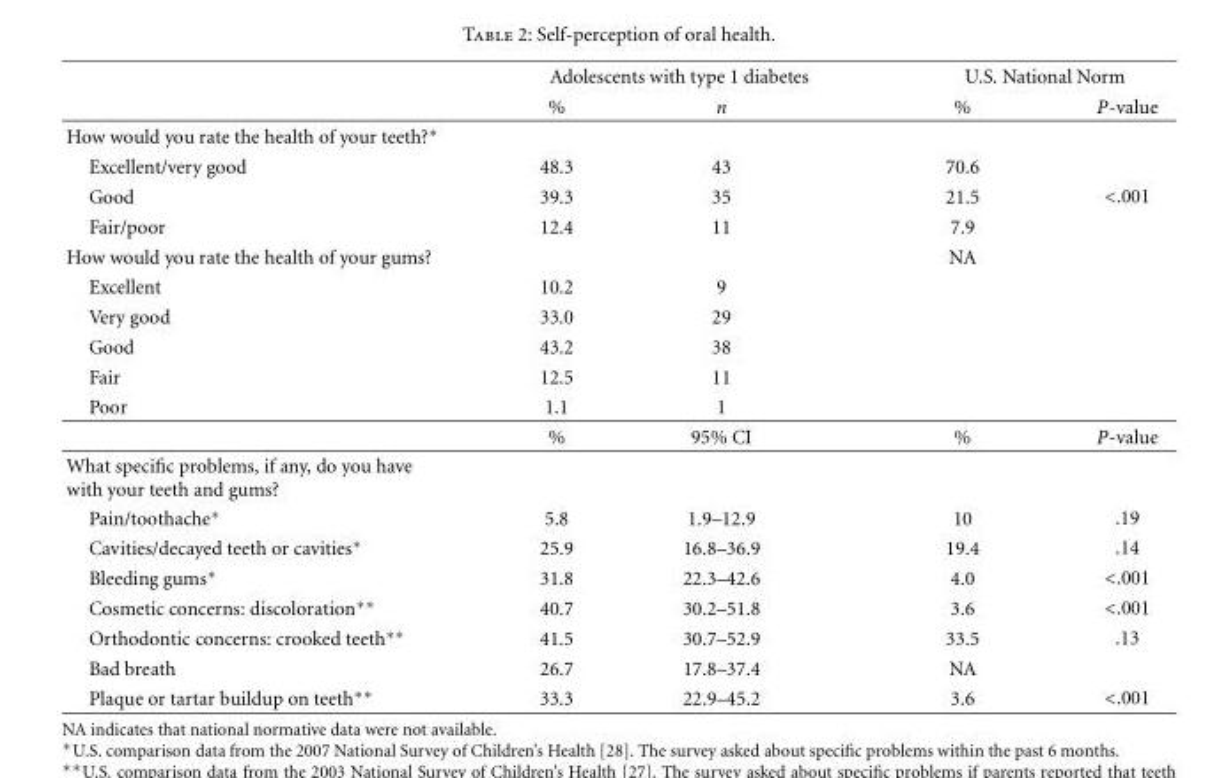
<table><thead><tr><td rowspan="2"></td><td colspan="2">Adolescents with type 1 diabetes</td><td colspan="2">U.S. National Norm</td></tr><tr><td>%</td><td>n</td><td>%</td><td>P-value</td></tr></thead><tbody><tr><td colspan="5">How would you rate the health of your teeth?∗</td></tr><tr><td>Excellent/very good</td><td>48.3</td><td>43</td><td>70.6</td><td></td></tr><tr><td>Good</td><td>39.3</td><td>35</td><td>21.5</td><td>&lt;.001</td></tr><tr><td>Fair/poor</td><td>12.4</td><td>11</td><td>7.9</td><td></td></tr><tr><td>How would you rate the health of your gums?</td><td></td><td></td><td>NA</td><td></td></tr><tr><td>Excellent</td><td>10.2</td><td>9</td><td></td><td></td></tr><tr><td>Very good</td><td>33.0</td><td>29</td><td></td><td></td></tr><tr><td>Good</td><td>43.2</td><td>38</td><td></td><td></td></tr><tr><td>Fair</td><td>12.5</td><td>11</td><td></td><td></td></tr><tr><td rowspan="2">Poor</td><td>1.1</td><td>1</td><td></td><td></td></tr><tr><td>%</td><td>95% CI</td><td>%</td><td>P-value</td></tr><tr><td colspan="5">What specific problems, if any, do you have with your teeth and gums?</td></tr><tr><td>Pain/toothache∗</td><td>5.8</td><td>1.9–12.9</td><td>10</td><td>.19</td></tr><tr><td>Cavities/decayed teeth or cavities∗</td><td>25.9</td><td>16.8–36.9</td><td>19.4</td><td>.14</td></tr><tr><td>Bleeding gums∗</td><td>31.8</td><td>22.3–42.6</td><td>4.0</td><td>&lt;.001</td></tr><tr><td>Cosmetic concerns: discoloration∗∗</td><td>40.7</td><td>30.2–51.8</td><td>3.6</td><td>&lt;.001</td></tr><tr><td>Orthodontic concerns: crooked teeth∗∗</td><td>41.5</td><td>30.7–52.9</td><td>33.5</td><td>.13</td></tr><tr><td>Bad breath</td><td>26.7</td><td>17.8–37.4</td><td>NA</td><td></td></tr><tr><td>Plaque or tartar buildup on teeth∗∗</td><td>33.3</td><td>22.9–45.2</td><td>3.6</td><td>&lt;.001</td></tr></tbody></table>